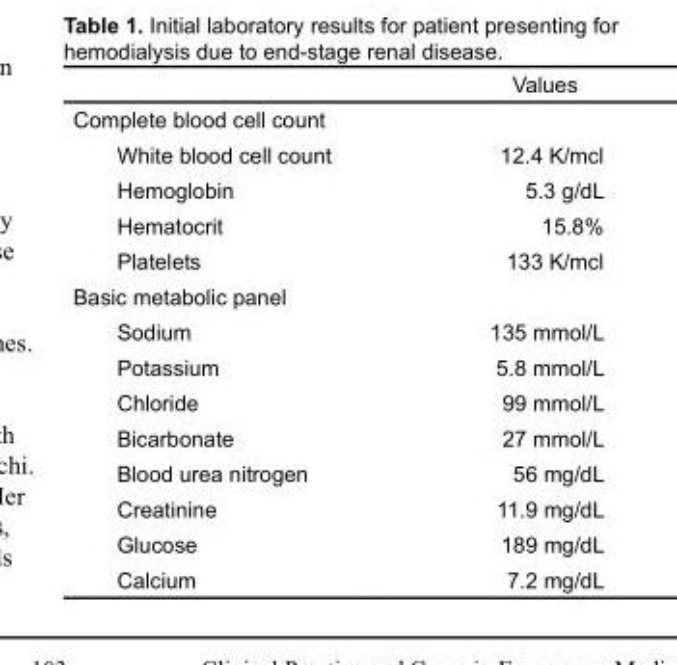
<table><thead><tr><td></td><td>Values</td></tr></thead><tbody><tr><td colspan="2">Complete blood cell count</td></tr><tr><td>White blood cell count</td><td>12.4 K/mcl</td></tr><tr><td>Hemoglobin</td><td>5.3 g/dL</td></tr><tr><td>Hematocrit</td><td>15.8%</td></tr><tr><td>Platelets</td><td>133 K/mcl</td></tr><tr><td colspan="2">Basic metabolic panel</td></tr><tr><td>Sodium</td><td>135 mmol/L</td></tr><tr><td>Potassium</td><td>5.8 mmol/L</td></tr><tr><td>Chloride</td><td>99 mmol/L</td></tr><tr><td>Bicarbonate</td><td>27 mmol/L</td></tr><tr><td>Blood urea nitrogen</td><td>56 mg/dL</td></tr><tr><td>Creatinine</td><td>11.9 mg/dL</td></tr><tr><td>Glucose</td><td>189 mg/dL</td></tr><tr><td>Calcium</td><td>7.2 mg/dL</td></tr></tbody></table>